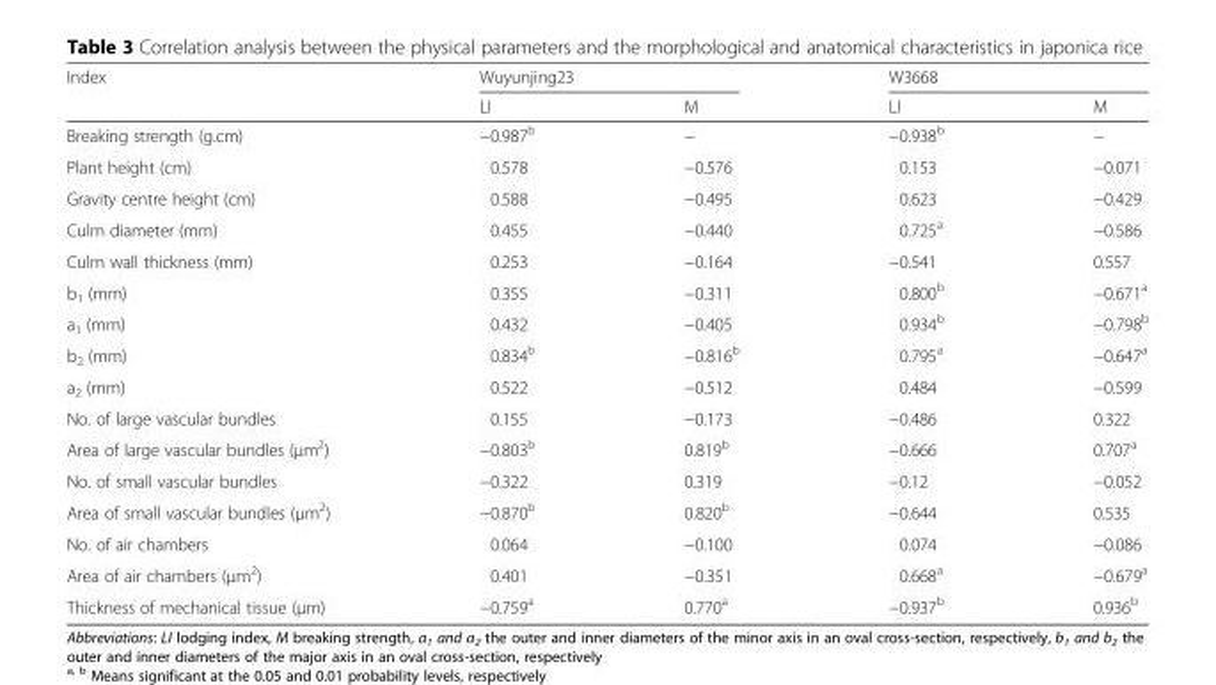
<table><thead><tr><td rowspan="2">Index</td><td colspan="2">Wuyunjing23</td><td colspan="2">W3668</td></tr><tr><td>LI</td><td>M</td><td>LI</td><td>M</td></tr></thead><tbody><tr><td>Breaking strength (g.cm)</td><td>−0.987<sup>b</sup></td><td>−</td><td>−0.938<sup>b</sup></td><td>−</td></tr><tr><td>Plant height (cm)</td><td>0.578</td><td>−0.576</td><td>0.153</td><td>−0.071</td></tr><tr><td>Gravity centre height (cm)</td><td>0.588</td><td>−0.495</td><td>0.623</td><td>−0.429</td></tr><tr><td>Culm diameter (mm)</td><td>0.455</td><td>−0.440</td><td>0.725<sup>a</sup></td><td>−0.586</td></tr><tr><td>Culm wall thickness (mm)</td><td>0.253</td><td>−0.164</td><td>−0.541</td><td>0.557</td></tr><tr><td>b<sub>1</sub> (mm)</td><td>0.355</td><td>−0.311</td><td>0.800<sup>b</sup></td><td>−0.671<sup>a</sup></td></tr><tr><td>a<sub>1</sub> (mm)</td><td>0.432</td><td>−0.405</td><td>0.934<sup>b</sup></td><td>−0.798<sup>b</sup></td></tr><tr><td>b<sub>2</sub> (mm)</td><td>0.834<sup>b</sup></td><td>−0.816<sup>b</sup></td><td>0.795<sup>a</sup></td><td>−0.647<sup>a</sup></td></tr><tr><td>a<sub>2</sub> (mm)</td><td>0.522</td><td>−0.512</td><td>0.484</td><td>−0.599</td></tr><tr><td>No. of large vascular bundles</td><td>0.155</td><td>−0.173</td><td>−0.486</td><td>0.322</td></tr><tr><td>Area of large vascular bundles (μm<sup>2</sup>)</td><td>−0.803<sup>b</sup></td><td>0.819<sup>b</sup></td><td>−0.666</td><td>0.707<sup>a</sup></td></tr><tr><td>No. of small vascular bundles</td><td>−0.322</td><td>0.319</td><td>−0.12</td><td>−0.052</td></tr><tr><td>Area of small vascular bundles (μm<sup>2</sup>)</td><td>−0.870<sup>b</sup></td><td>0.820<sup>b</sup></td><td>−0.644</td><td>0.535</td></tr><tr><td>No. of air chambers</td><td>0.064</td><td>−0.100</td><td>0.074</td><td>−0.086</td></tr><tr><td>Area of air chambers (μm<sup>2</sup>)</td><td>0.401</td><td>−0.351</td><td>0.668<sup>a</sup></td><td>−0.679<sup>a</sup></td></tr><tr><td>Thickness of mechanical tissue (μm)</td><td>−0.759<sup>a</sup></td><td>0.770<sup>a</sup></td><td>−0.937<sup>b</sup></td><td>0.936<sup>b</sup></td></tr></tbody></table>